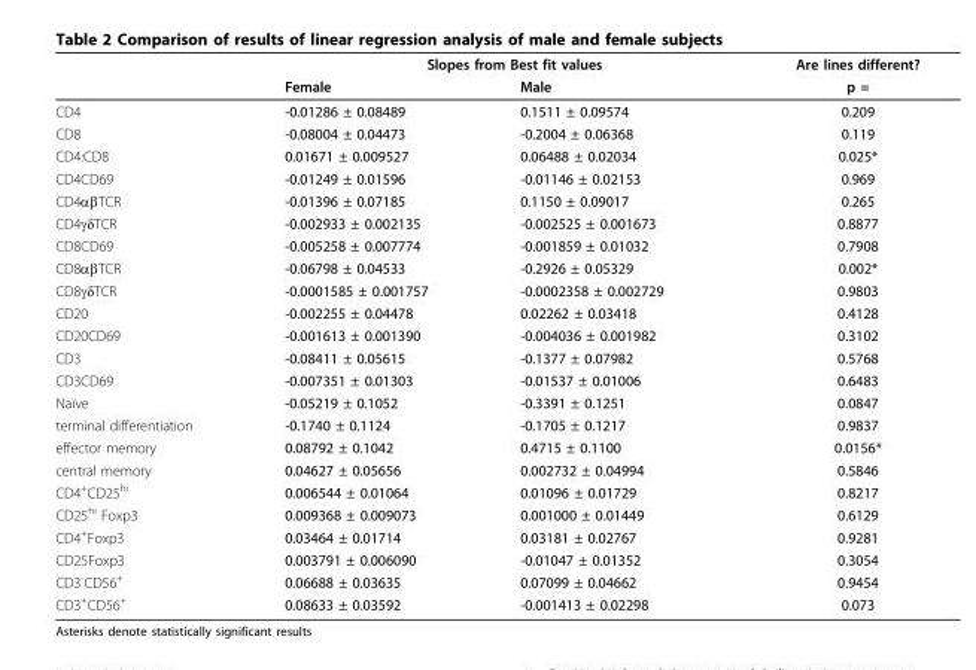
<table><thead><tr><td rowspan="2"></td><td colspan="2">Slopes from Best fit values</td><td rowspan="2">Are lines different? p =</td></tr><tr><td>Female</td><td>Male</td></tr></thead><tbody><tr><td>CD4</td><td>-0.01286 ± 0.08489</td><td>0.1511 ± 0.09574</td><td>0.209</td></tr><tr><td>CD8</td><td>-0.08004 ± 0.04473</td><td>-0.2004 ± 0.06368</td><td>0.119</td></tr><tr><td>CD4:CD8</td><td>0.01671 ± 0.009527</td><td>0.06488 ± 0.02034</td><td>0.025*</td></tr><tr><td>CD4CD69</td><td>-0.01249 ± 0.01596</td><td>-0.01146 ± 0.02153</td><td>0.969</td></tr><tr><td>CD4αβTCR</td><td>-0.01396 ± 0.07185</td><td>0.1150 ± 0.09017</td><td>0.265</td></tr><tr><td>CD4γδTCR</td><td>-0.002933 ± 0.002135</td><td>-0.002525 ± 0.001673</td><td>0.8877</td></tr><tr><td>CD8CD69</td><td>-0.005258 ± 0.007774</td><td>-0.001859 ± 0.01032</td><td>0.7908</td></tr><tr><td>CD8αβTCR</td><td>-0.06798 ± 0.04533</td><td>-0.2926 ± 0.05329</td><td>0.002*</td></tr><tr><td>CD8γδTCR</td><td>-0.0001585 ± 0.001757</td><td>-0.0002358 ± 0.002729</td><td>0.9803</td></tr><tr><td>CD20</td><td>-0.002255 ± 0.04478</td><td>0.02262 ± 0.03418</td><td>0.4128</td></tr><tr><td>CD20CD69</td><td>-0.001613 ± 0.001390</td><td>-0.004036 ± 0.001982</td><td>0.3102</td></tr><tr><td>CD3</td><td>-0.08411 ± 0.05615</td><td>-0.1377 ± 0.07982</td><td>0.5768</td></tr><tr><td>CD3CD69</td><td>-0.007351 ± 0.01303</td><td>-0.01537 ± 0.01006</td><td>0.6483</td></tr><tr><td>Naïve</td><td>-0.05219 ± 0.1052</td><td>-0.3391 ± 0.1251</td><td>0.0847</td></tr><tr><td>terminal differentiation</td><td>-0.1740 ± 0.1124</td><td>-0.1705 ± 0.1217</td><td>0.9837</td></tr><tr><td>effector memory</td><td>0.08792 ± 0.1042</td><td>0.4715 ± 0.1100</td><td>0.0156*</td></tr><tr><td>central memory</td><td>0.04627 ± 0.05656</td><td>0.002732 ± 0.04994</td><td>0.5846</td></tr><tr><td>CD4<sup>+</sup>CD25<sup>hi</sup></td><td>0.006544 ± 0.01064</td><td>0.01096 ± 0.01729</td><td>0.8217</td></tr><tr><td>CD25<sup>hi</sup> Foxp3</td><td>0.009368 ± 0.009073</td><td>0.001000 ± 0.01449</td><td>0.6129</td></tr><tr><td>CD4<sup>+</sup>Foxp3</td><td>0.03464 ± 0.01714</td><td>0.03181 ± 0.02767</td><td>0.9281</td></tr><tr><td>CD25Foxp3</td><td>0.003791 ± 0.006090</td><td>-0.01047 ± 0.01352</td><td>0.3054</td></tr><tr><td>CD3<sup>-</sup>CD56<sup>+</sup></td><td>0.06688 ± 0.03635</td><td>0.07099 ± 0.04662</td><td>0.9454</td></tr><tr><td>CD3<sup>+</sup>CD56<sup>+</sup></td><td>0.08633 ± 0.03592</td><td>-0.001413 ± 0.02298</td><td>0.073</td></tr></tbody></table>